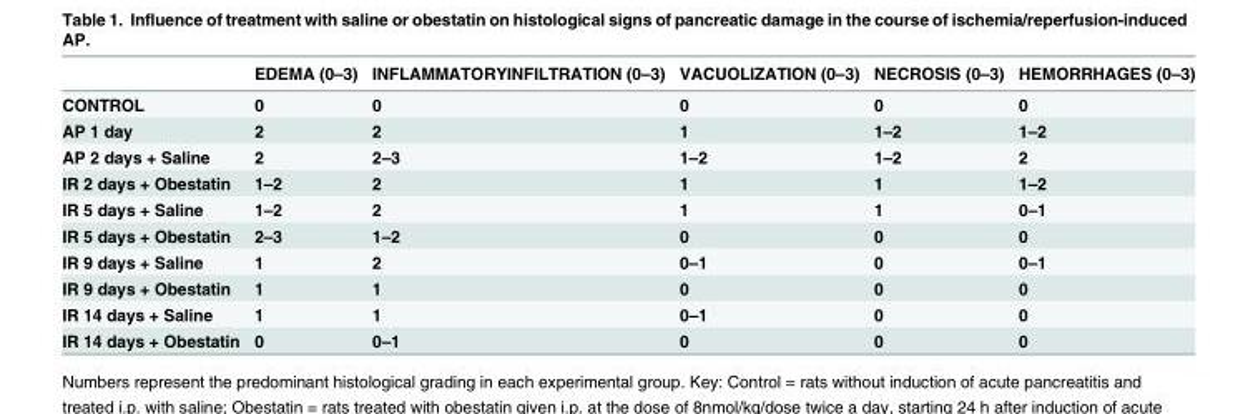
<table><thead><tr><td></td><td>EDEMA (0–3)</td><td>INFLAMMATORYINFILTRATION (0–3)</td><td>VACUOLIZATION (0–3)</td><td>NECROSIS (0–3)</td><td>HEMORRHAGES (0–3)</td></tr></thead><tbody><tr><td>CONTROL</td><td>0</td><td>0</td><td>0</td><td>0</td><td>0</td></tr><tr><td>AP 1 day</td><td>2</td><td>2</td><td>1</td><td>1–2</td><td>1–2</td></tr><tr><td>AP 2 days + Saline</td><td>2</td><td>2–3</td><td>1–2</td><td>1–2</td><td>2</td></tr><tr><td>IR 2 days + Obestatin</td><td>1–2</td><td>2</td><td>1</td><td>1</td><td>1–2</td></tr><tr><td>IR 5 days + Saline</td><td>1–2</td><td>2</td><td>1</td><td>1</td><td>0–1</td></tr><tr><td>IR 5 days + Obestatin</td><td>2–3</td><td>1–2</td><td>0</td><td>0</td><td>0</td></tr><tr><td>IR 9 days + Saline</td><td>1</td><td>2</td><td>0–1</td><td>0</td><td>0–1</td></tr><tr><td>IR 9 days + Obestatin</td><td>1</td><td>1</td><td>0</td><td>0</td><td>0</td></tr><tr><td>IR 14 days + Saline</td><td>1</td><td>1</td><td>0–1</td><td>0</td><td>0</td></tr><tr><td>IR 14 days + Obestatin</td><td>0</td><td>0–1</td><td>0</td><td>0</td><td>0</td></tr></tbody></table>